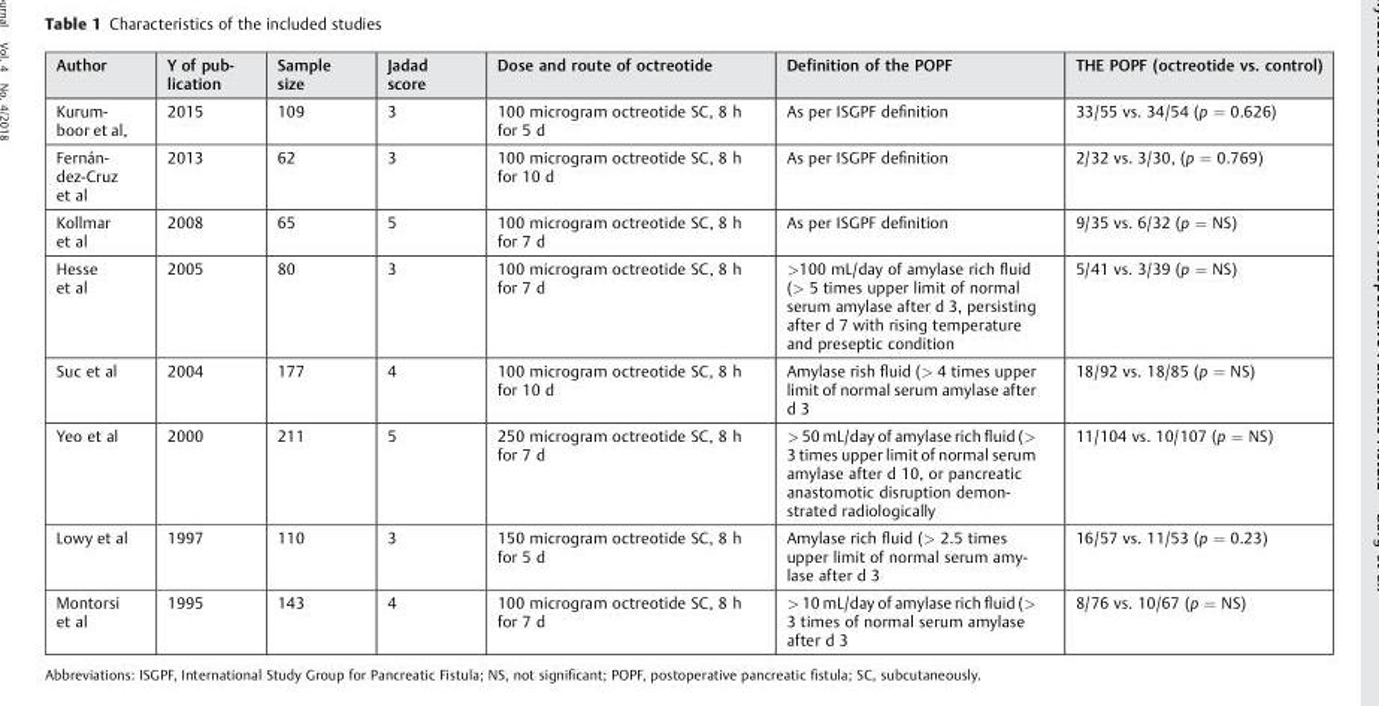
<table><thead><tr><td>Author</td><td>Y of pub- lication</td><td>Sample size</td><td>Jadad score</td><td>Dose and route of octreotide</td><td>Definition of the POPF</td><td>THE POPF (octreotide vs. control)</td></tr></thead><tbody><tr><td>Kurum- boor et al,</td><td>2015</td><td>109</td><td>3</td><td>100 microgram octreotide SC, 8 h for 5 d</td><td>As per ISGPF definition</td><td>33/55 vs. 34/54 (p = 0.626)</td></tr><tr><td>Fernán- dez-Cruz et al</td><td>2013</td><td>62</td><td>3</td><td>100 microgram octreotide SC, 8 h for 10 d</td><td>As per ISGPF definition</td><td>2/32 vs. 3/30, (p = 0.769)</td></tr><tr><td>Kollmar et al</td><td>2008</td><td>65</td><td>5</td><td>100 microgram octreotide SC, 8 h for 7 d</td><td>As per ISGPF definition</td><td>9/35 vs. 6/32 (p = NS)</td></tr><tr><td>Hesse et al</td><td>2005</td><td>80</td><td>3</td><td>100 microgram octreotide SC, 8 h for 7 d</td><td>&gt;100 mL/day of amylase rich fluid (&gt; 5 times upper limit of normal serum amylase after d 3, persisting after d 7 with rising temperature and preseptic condition</td><td>5/41 vs. 3/39 (p = NS)</td></tr><tr><td>Suc et al</td><td>2004</td><td>177</td><td>4</td><td>100 microgram octreotide SC, 8 h for 10 d</td><td>Amylase rish fluid (&gt; 4 times upper limit of normal serum amylase after d 3</td><td>18/92 vs. 18/85 (p = NS)</td></tr><tr><td>Yeo et al</td><td>2000</td><td>211</td><td>5</td><td>250 microgram octreotide SC, 8 h for 7 d</td><td>&gt; 50 mL/day of amylase rich fluid (&gt; 3 times upper limit of normal serum amylase after d 10, or pancreatic anastomotic disruption demon- strated radiologically</td><td>11/104 vs. 10/107 (p = NS)</td></tr><tr><td>Lowy et al</td><td>1997</td><td>110</td><td>3</td><td>150 microgram octreotide SC, 8 h for 5 d</td><td>Amylase rich fluid (&gt; 2.5 times upper limit of normal serum amy- lase after d 3</td><td>16/57 vs. 11/53 (p = 0.23)</td></tr><tr><td>Montorsi et al</td><td>1995</td><td>143</td><td>4</td><td>100 microgram octreotide SC, 8 h for 7 d</td><td>&gt; 10 mL/day of amylase rich fluid (&gt; 3 times of normal serum amylase after d 3</td><td>8/76 vs. 10/67 (p = NS)</td></tr></tbody></table>